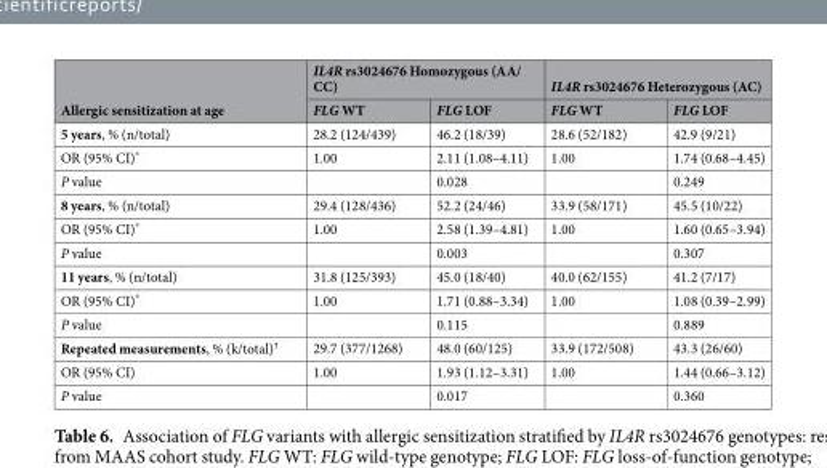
<table><thead><tr><td rowspan="2">Allergic sensitization at age</td><td colspan="2">IL4R rs3024676 Homozygous (AA/ CC)</td><td colspan="2">IL4R rs3024676 Heterozygous (AC)</td></tr><tr><td>FLG WT</td><td>FLG LOF</td><td>FLG WT</td><td>FLG LOF</td></tr></thead><tbody><tr><td>5 years, % (n/total)</td><td>28.2 (124/439)</td><td>46.2 (18/39)</td><td>28.6 (52/182)</td><td>42.9 (9/21)</td></tr><tr><td>OR (95% CI)*</td><td>1.00</td><td>2.11 (1.08–4.11)</td><td>1.00</td><td>1.74 (0.68–4.45)</td></tr><tr><td>P value</td><td></td><td>0.028</td><td></td><td>0.249</td></tr><tr><td>8 years, % (n/total)</td><td>29.4 (128/436)</td><td>52.2 (24/46)</td><td>33.9 (58/171)</td><td>45.5 (10/22)</td></tr><tr><td>OR (95% CI)*</td><td>1.00</td><td>2.58 (1.39–4.81)</td><td>1.00</td><td>1.60 (0.65–3.94)</td></tr><tr><td>P value</td><td></td><td>0.003</td><td></td><td>0.307</td></tr><tr><td>11 years, % (n/total)</td><td>31.8 (125/393)</td><td>45.0 (18/40)</td><td>40.0 (62/155)</td><td>41.2 (7/17)</td></tr><tr><td>OR (95% CI)*</td><td>1.00</td><td>1.71 (0.88–3.34)</td><td>1.00</td><td>1.08 (0.39–2.99)</td></tr><tr><td>P value</td><td></td><td>0.115</td><td></td><td>0.889</td></tr><tr><td>Repeated measurements, % (k/total)<sup>†</sup></td><td>29.7 (377/1268)</td><td>48.0 (60/125)</td><td>33.9 (172/508)</td><td>43.3 (26/60)</td></tr><tr><td>OR (95% CI)</td><td>1.00</td><td>1.93 (1.12–3.31)</td><td>1.00</td><td>1.44 (0.66–3.12)</td></tr><tr><td>P value</td><td></td><td>0.017</td><td></td><td>0.360</td></tr></tbody></table>